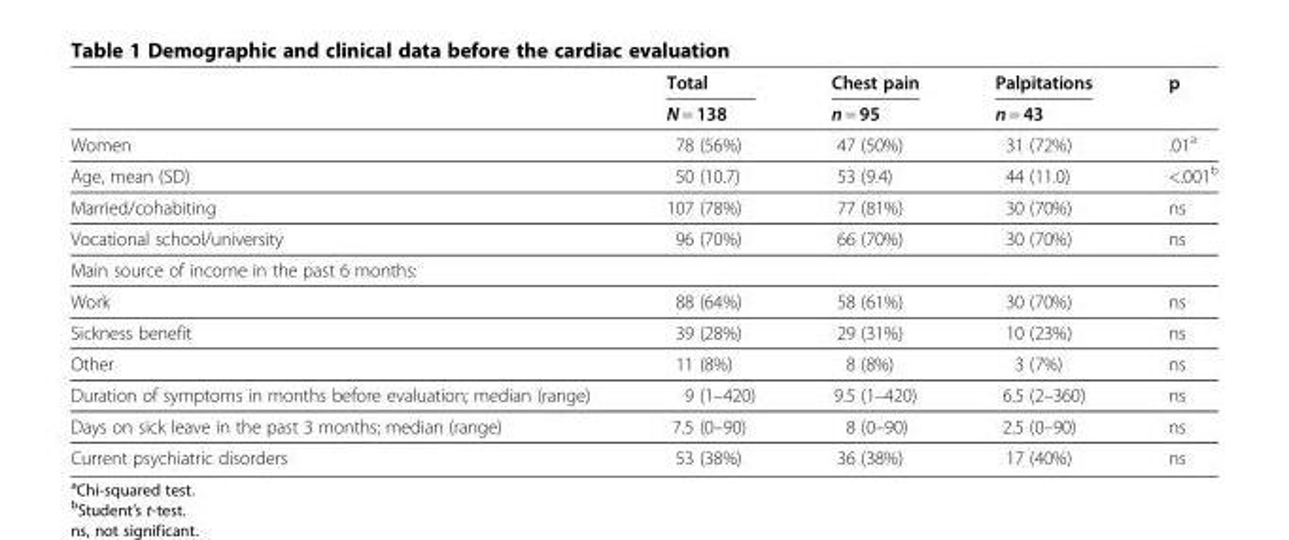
<table><thead><tr><td rowspan="2"></td><td rowspan="2">Total N = 138</td><td rowspan="2">Chest pain n = 95</td><td rowspan="2">Palpitations n = 43</td><td rowspan="2">p</td></tr><tr></tr></thead><tbody><tr><td>Women</td><td>78 (56%)</td><td>47 (50%)</td><td>31 (72%)</td><td>.01<sup>a</sup></td></tr><tr><td>Age, mean (SD)</td><td>50 (10.7)</td><td>53 (9.4)</td><td>44 (11.0)</td><td>&lt;.001<sup>b</sup></td></tr><tr><td>Married/cohabiting</td><td>107 (78%)</td><td>77 (81%)</td><td>30 (70%)</td><td>ns</td></tr><tr><td>Vocational school/university</td><td>96 (70%)</td><td>66 (70%)</td><td>30 (70%)</td><td>ns</td></tr><tr><td colspan="5">Main source of income in the past 6 months:</td></tr><tr><td>Work</td><td>88 (64%)</td><td>58 (61%)</td><td>30 (70%)</td><td>ns</td></tr><tr><td>Sickness benefit</td><td>39 (28%)</td><td>29 (31%)</td><td>10 (23%)</td><td>ns</td></tr><tr><td>Other</td><td>11 (8%)</td><td>8 (8%)</td><td>3 (7%)</td><td>ns</td></tr><tr><td>Duration of symptoms in months before evaluation; median (range)</td><td>9 (1–420)</td><td>9.5 (1–420)</td><td>6.5 (2–360)</td><td>ns</td></tr><tr><td>Days on sick leave in the past 3 months; median (range)</td><td>7.5 (0–90)</td><td>8 (0–90)</td><td>2.5 (0–90)</td><td>ns</td></tr><tr><td>Current psychiatric disorders</td><td>53 (38%)</td><td>36 (38%)</td><td>17 (40%)</td><td>ns</td></tr></tbody></table>